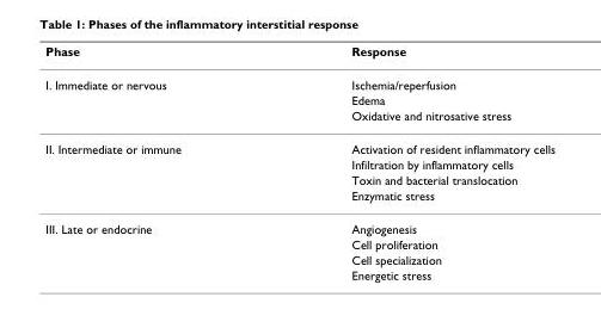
<table><thead><tr><td>Phase</td><td>Response</td></tr></thead><tbody><tr><td rowspan="3">I. Immediate or nervous</td><td>Ischemia/reperfusion</td></tr><tr><td>Edema</td></tr><tr><td>Oxidative and nitrosative stress</td></tr><tr><td rowspan="4">II. Intermediate or immune</td><td>Activation of resident inflammatory cells</td></tr><tr><td>Infiltration by inflammatory cells</td></tr><tr><td>Toxin and bacterial translocation</td></tr><tr><td>Enzymatic stress</td></tr><tr><td rowspan="4">III. Late or endocrine</td><td>Angiogenesis</td></tr><tr><td>Cell proliferation</td></tr><tr><td>Cell specialization</td></tr><tr><td>Energetic stress</td></tr></tbody></table>